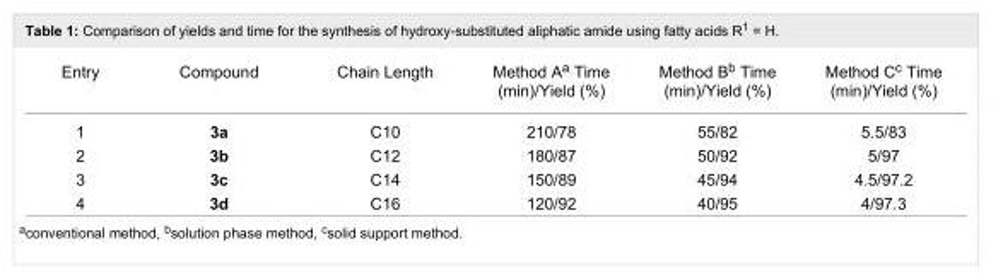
<table><tbody><tr><td>Entry</td><td>Compound</td><td>Chain Length</td><td>Method Aa Time (min)/Yield (%)</td><td>Method B<sup>b</sup> Time (min)/Yield (%)</td><td>Method C<sup>c</sup> Time (min)/Yield (%)</td></tr><tr><td>1</td><td>3a</td><td>C10</td><td>210/78</td><td>55/82</td><td>5.5/83</td></tr><tr><td>2</td><td>3b</td><td>C12</td><td>180/87</td><td>50/92</td><td>5/97</td></tr><tr><td>3</td><td>3c</td><td>C14</td><td>150/89</td><td>45/94</td><td>4.5/97.2</td></tr><tr><td>4</td><td>3d</td><td>C16</td><td>120/92</td><td>40/95</td><td>4/97.3</td></tr></tbody></table>